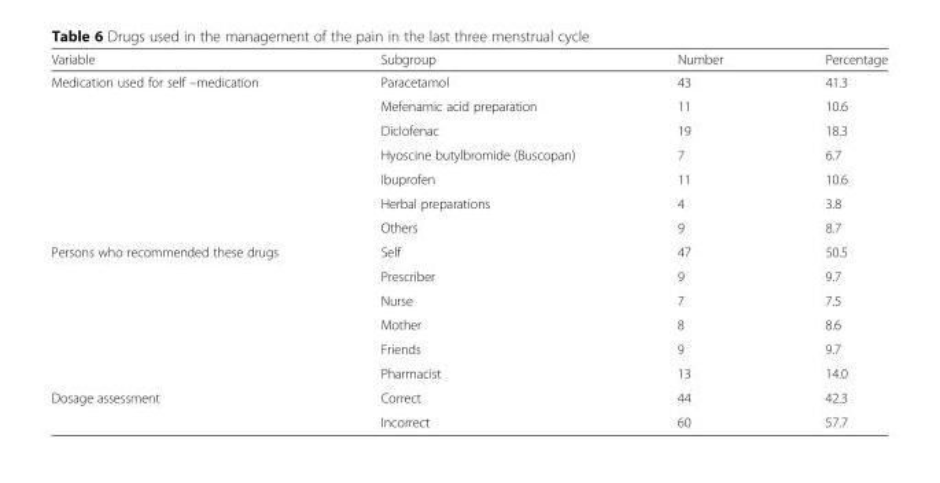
<table><thead><tr><td>Variable</td><td>Subgroup</td><td>Number</td><td>Percentage</td></tr></thead><tbody><tr><td rowspan="7">Medication used for self –medication</td><td>Paracetamol</td><td>43</td><td>41.3</td></tr><tr><td>Mefenamic acid preparation</td><td>11</td><td>10.6</td></tr><tr><td>Diclofenac</td><td>19</td><td>18.3</td></tr><tr><td>Hyoscine butylbromide (Buscopan)</td><td>7</td><td>6.7</td></tr><tr><td>Ibuprofen</td><td>11</td><td>10.6</td></tr><tr><td>Herbal preparations</td><td>4</td><td>3.8</td></tr><tr><td>Others</td><td>9</td><td>8.7</td></tr><tr><td rowspan="6">Persons who recommended these drugs</td><td>Self</td><td>47</td><td>50.5</td></tr><tr><td>Prescriber</td><td>9</td><td>9.7</td></tr><tr><td>Nurse</td><td>7</td><td>7.5</td></tr><tr><td>Mother</td><td>8</td><td>8.6</td></tr><tr><td>Friends</td><td>9</td><td>9.7</td></tr><tr><td>Pharmacist</td><td>13</td><td>14.0</td></tr><tr><td rowspan="2">Dosage assessment</td><td>Correct</td><td>44</td><td>42.3</td></tr><tr><td>Incorrect</td><td>60</td><td>57.7</td></tr></tbody></table>